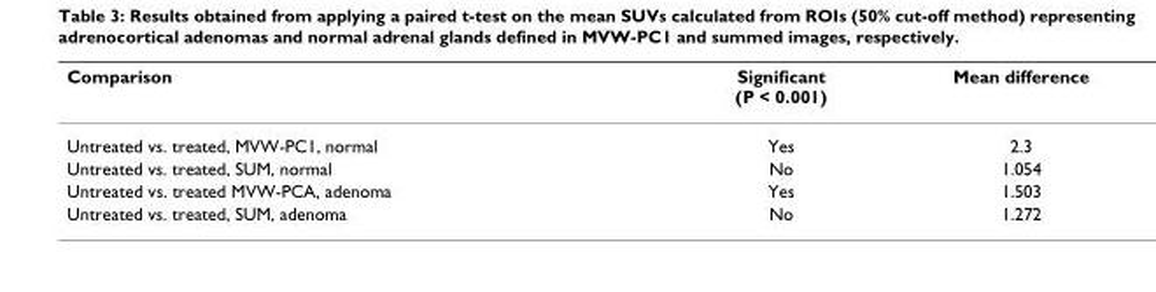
<table><thead><tr><td>Comparison</td><td>Significant (P &lt; 0.001)</td><td>Mean difference</td></tr></thead><tbody><tr><td>Untreated vs. treated, MVW-PC1, normal</td><td>Yes</td><td>2.3</td></tr><tr><td>Untreated vs. treated, SUM, normal</td><td>No</td><td>1.054</td></tr><tr><td>Untreated vs. treated MVW-PCA, adenoma</td><td>Yes</td><td>1.503</td></tr><tr><td>Untreated vs. treated, SUM, adenoma</td><td>No</td><td>1.272</td></tr></tbody></table>